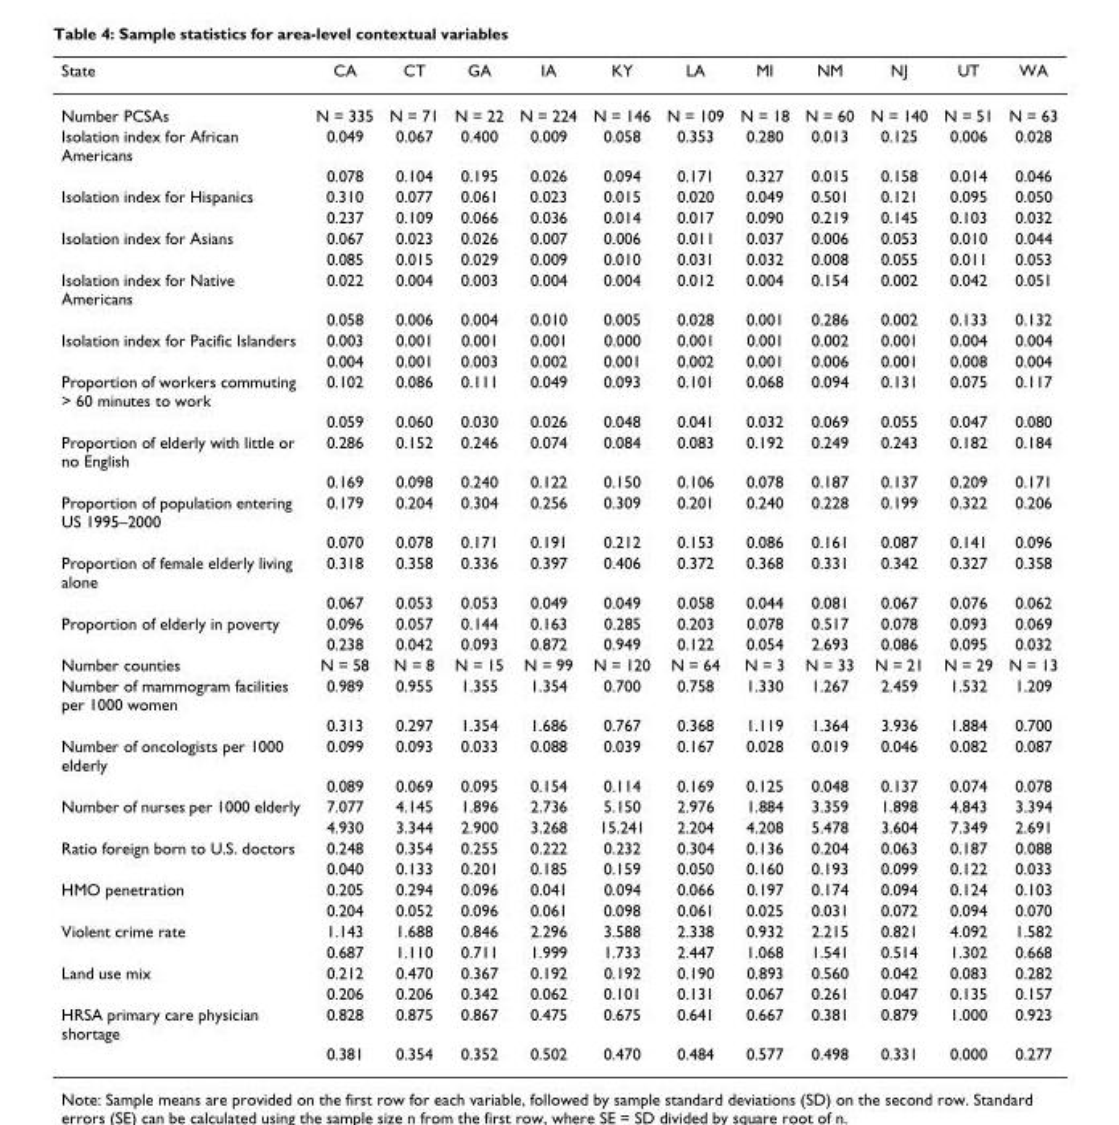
<table><thead><tr><td>State</td><td>CA</td><td>CT</td><td>GA</td><td>IA</td><td>KY</td><td>LA</td><td>MI</td><td>NM</td><td>NJ</td><td>UT</td><td>WA</td></tr></thead><tbody><tr><td>Number PCSAs</td><td>N = 335</td><td>N = 71</td><td>N = 22</td><td>N = 224</td><td>N = 146</td><td>N = 109</td><td>N = 18</td><td>N = 60</td><td>N = 140</td><td>N = 51</td><td>N = 63</td></tr><tr><td rowspan="2">Isolation index for African Americans</td><td>0.049</td><td>0.067</td><td>0.400</td><td>0.009</td><td>0.058</td><td>0.353</td><td>0.280</td><td>0.013</td><td>0.125</td><td>0.006</td><td>0.028</td></tr><tr><td>0.078</td><td>0.104</td><td>0.195</td><td>0.026</td><td>0.094</td><td>0.171</td><td>0.327</td><td>0.015</td><td>0.158</td><td>0.014</td><td>0.046</td></tr><tr><td rowspan="2">Isolation index for Hispanics</td><td>0.310</td><td>0.077</td><td>0.061</td><td>0.023</td><td>0.015</td><td>0.020</td><td>0.049</td><td>0.501</td><td>0.121</td><td>0.095</td><td>0.050</td></tr><tr><td>0.237</td><td>0.109</td><td>0.066</td><td>0.036</td><td>0.014</td><td>0.017</td><td>0.090</td><td>0.219</td><td>0.145</td><td>0.103</td><td>0.032</td></tr><tr><td rowspan="2">Isolation index for Asians</td><td>0.067</td><td>0.023</td><td>0.026</td><td>0.007</td><td>0.006</td><td>0.011</td><td>0.037</td><td>0.006</td><td>0.053</td><td>0.010</td><td>0.044</td></tr><tr><td>0.085</td><td>0.015</td><td>0.029</td><td>0.009</td><td>0.010</td><td>0.031</td><td>0.032</td><td>0.008</td><td>0.055</td><td>0.011</td><td>0.053</td></tr><tr><td rowspan="2">Isolation index for Native Americans</td><td>0.022</td><td>0.004</td><td>0.003</td><td>0.004</td><td>0.004</td><td>0.012</td><td>0.004</td><td>0.154</td><td>0.002</td><td>0.042</td><td>0.051</td></tr><tr><td>0.058</td><td>0.006</td><td>0.004</td><td>0.010</td><td>0.005</td><td>0.028</td><td>0.001</td><td>0.286</td><td>0.002</td><td>0.133</td><td>0.132</td></tr><tr><td rowspan="2">Isolation index for Pacific Islanders</td><td>0.003</td><td>0.001</td><td>0.001</td><td>0.001</td><td>0.000</td><td>0.001</td><td>0.001</td><td>0.002</td><td>0.001</td><td>0.004</td><td>0.004</td></tr><tr><td>0.004</td><td>0.001</td><td>0.003</td><td>0.002</td><td>0.001</td><td>0.002</td><td>0.001</td><td>0.006</td><td>0.001</td><td>0.008</td><td>0.004</td></tr><tr><td rowspan="2">Proportion of workers commuting &gt; 60 minutes to work</td><td>0.102</td><td>0.086</td><td>0.111</td><td>0.049</td><td>0.093</td><td>0.101</td><td>0.068</td><td>0.094</td><td>0.131</td><td>0.075</td><td>0.117</td></tr><tr><td>0.059</td><td>0.060</td><td>0.030</td><td>0.026</td><td>0.048</td><td>0.041</td><td>0.032</td><td>0.069</td><td>0.055</td><td>0.047</td><td>0.080</td></tr><tr><td rowspan="2">Proportion of elderly with little or no English</td><td>0.286</td><td>0.152</td><td>0.246</td><td>0.074</td><td>0.084</td><td>0.083</td><td>0.192</td><td>0.249</td><td>0.243</td><td>0.182</td><td>0.184</td></tr><tr><td>0.169</td><td>0.098</td><td>0.240</td><td>0.122</td><td>0.150</td><td>0.106</td><td>0.078</td><td>0.187</td><td>0.137</td><td>0.209</td><td>0.171</td></tr><tr><td rowspan="2">Proportion of population entering US 1995–2000</td><td>0.179</td><td>0.204</td><td>0.304</td><td>0.256</td><td>0.309</td><td>0.201</td><td>0.240</td><td>0.228</td><td>0.199</td><td>0.322</td><td>0.206</td></tr><tr><td>0.070</td><td>0.078</td><td>0.171</td><td>0.191</td><td>0.212</td><td>0.153</td><td>0.086</td><td>0.161</td><td>0.087</td><td>0.141</td><td>0.096</td></tr><tr><td rowspan="2">Proportion of female elderly living alone</td><td>0.318</td><td>0.358</td><td>0.336</td><td>0.397</td><td>0.406</td><td>0.372</td><td>0.368</td><td>0.331</td><td>0.342</td><td>0.327</td><td>0.358</td></tr><tr><td>0.067</td><td>0.053</td><td>0.053</td><td>0.049</td><td>0.049</td><td>0.058</td><td>0.044</td><td>0.081</td><td>0.067</td><td>0.076</td><td>0.062</td></tr><tr><td rowspan="2">Proportion of elderly in poverty</td><td>0.096</td><td>0.057</td><td>0.144</td><td>0.163</td><td>0.285</td><td>0.203</td><td>0.078</td><td>0.517</td><td>0.078</td><td>0.093</td><td>0.069</td></tr><tr><td>0.238</td><td>0.042</td><td>0.093</td><td>0.872</td><td>0.949</td><td>0.122</td><td>0.054</td><td>2.693</td><td>0.086</td><td>0.095</td><td>0.032</td></tr><tr><td>Number counties</td><td>N = 58</td><td>N = 8</td><td>N = 15</td><td>N = 99</td><td>N = 120</td><td>N = 64</td><td>N = 3</td><td>N = 33</td><td>N = 21</td><td>N = 29</td><td>N = 13</td></tr><tr><td rowspan="2">Number of mammogram facilities per 1000 women</td><td>0.989</td><td>0.955</td><td>1.355</td><td>1.354</td><td>0.700</td><td>0.758</td><td>1.330</td><td>1.267</td><td>2.459</td><td>1.532</td><td>1.209</td></tr><tr><td>0.313</td><td>0.297</td><td>1.354</td><td>1.686</td><td>0.767</td><td>0.368</td><td>1.119</td><td>1.364</td><td>3.936</td><td>1.884</td><td>0.700</td></tr><tr><td rowspan="2">Number of oncologists per 1000 elderly</td><td>0.099</td><td>0.093</td><td>0.033</td><td>0.088</td><td>0.039</td><td>0.167</td><td>0.028</td><td>0.019</td><td>0.046</td><td>0.082</td><td>0.087</td></tr><tr><td>0.089</td><td>0.069</td><td>0.095</td><td>0.154</td><td>0.114</td><td>0.169</td><td>0.125</td><td>0.048</td><td>0.137</td><td>0.074</td><td>0.078</td></tr><tr><td rowspan="2">Number of nurses per 1000 elderly</td><td>7.077</td><td>4.145</td><td>1.896</td><td>2.736</td><td>5.150</td><td>2.976</td><td>1.884</td><td>3.359</td><td>1.898</td><td>4.843</td><td>3.394</td></tr><tr><td>4.930</td><td>3.344</td><td>2.900</td><td>3.268</td><td>15.241</td><td>2.204</td><td>4.208</td><td>5.478</td><td>3.604</td><td>7.349</td><td>2.691</td></tr><tr><td rowspan="2">Ratio foreign born to U.S. doctors</td><td>0.248</td><td>0.354</td><td>0.255</td><td>0.222</td><td>0.232</td><td>0.304</td><td>0.136</td><td>0.204</td><td>0.063</td><td>0.187</td><td>0.088</td></tr><tr><td>0.040</td><td>0.133</td><td>0.201</td><td>0.185</td><td>0.159</td><td>0.050</td><td>0.160</td><td>0.193</td><td>0.099</td><td>0.122</td><td>0.033</td></tr><tr><td rowspan="2">HMO penetration</td><td>0.205</td><td>0.294</td><td>0.096</td><td>0.041</td><td>0.094</td><td>0.066</td><td>0.197</td><td>0.174</td><td>0.094</td><td>0.124</td><td>0.103</td></tr><tr><td>0.204</td><td>0.052</td><td>0.096</td><td>0.061</td><td>0.098</td><td>0.061</td><td>0.025</td><td>0.031</td><td>0.072</td><td>0.094</td><td>0.070</td></tr><tr><td rowspan="2">Violent crime rate</td><td>1.143</td><td>1.688</td><td>0.846</td><td>2.296</td><td>3.588</td><td>2.338</td><td>0.932</td><td>2.215</td><td>0.821</td><td>4.092</td><td>1.582</td></tr><tr><td>0.687</td><td>1.110</td><td>0.711</td><td>1.999</td><td>1.733</td><td>2.447</td><td>1.068</td><td>1.541</td><td>0.514</td><td>1.302</td><td>0.668</td></tr><tr><td rowspan="2">Land use mix</td><td>0.212</td><td>0.470</td><td>0.367</td><td>0.192</td><td>0.192</td><td>0.190</td><td>0.893</td><td>0.560</td><td>0.042</td><td>0.083</td><td>0.282</td></tr><tr><td>0.206</td><td>0.206</td><td>0.342</td><td>0.062</td><td>0.101</td><td>0.131</td><td>0.067</td><td>0.261</td><td>0.047</td><td>0.135</td><td>0.157</td></tr><tr><td rowspan="2">HRSA primary care physician shortage</td><td>0.828</td><td>0.875</td><td>0.867</td><td>0.475</td><td>0.675</td><td>0.641</td><td>0.667</td><td>0.381</td><td>0.879</td><td>1.000</td><td>0.923</td></tr><tr><td>0.381</td><td>0.354</td><td>0.352</td><td>0.502</td><td>0.470</td><td>0.484</td><td>0.577</td><td>0.498</td><td>0.331</td><td>0.000</td><td>0.277</td></tr></tbody></table>